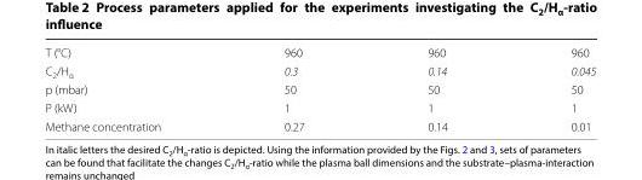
<table><tbody><tr><td>T (°C)</td><td>960</td><td>960</td><td>960</td></tr><tr><td>C<sub>2</sub>/H<sub>α</sub></td><td>0.3</td><td>0.14</td><td>0.045</td></tr><tr><td>p (mbar)</td><td>50</td><td>50</td><td>50</td></tr><tr><td>P (kW)</td><td>1</td><td>1</td><td>1</td></tr><tr><td>Methane concentration</td><td>0.27</td><td>0.14</td><td>0.01</td></tr></tbody></table>